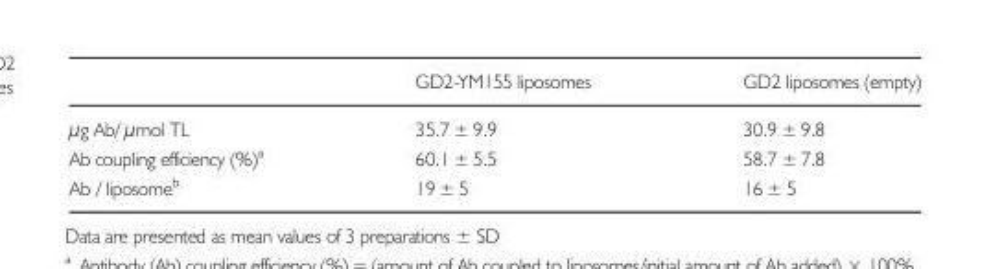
<table><thead><tr><td></td><td>GD2-YM155 liposomes</td><td>GD2 liposomes (empty)</td></tr></thead><tbody><tr><td>μg Ab/ μmol TL</td><td>35.7 ± 9.9</td><td>30.9 ± 9.8</td></tr><tr><td>Ab coupling efficiency (%)<sup>a</sup></td><td>60.1 ± 5.5</td><td>58.7 ± 7.8</td></tr><tr><td>Ab / liposome<sup>b</sup></td><td>19 ± 5</td><td>16 ± 5</td></tr></tbody></table>